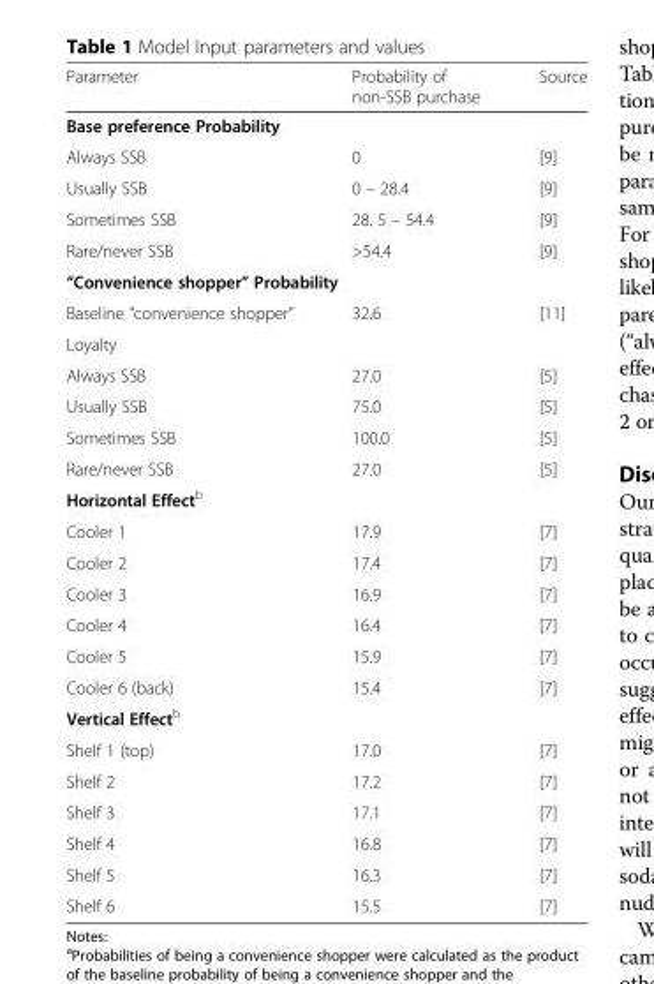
<table><thead><tr><td>Parameter</td><td>Probability of non-SSB purchase</td><td>Source</td></tr></thead><tbody><tr><td colspan="3">Base preference Probability</td></tr><tr><td>Always SSB</td><td>0</td><td>[9]</td></tr><tr><td>Usually SSB</td><td>0 – 28.4</td><td>[9]</td></tr><tr><td>Sometimes SSB</td><td>28. 5 – 54.4</td><td>[9]</td></tr><tr><td>Rare/never SSB</td><td>&gt;54.4</td><td>[9]</td></tr><tr><td colspan="3">“Convenience shopper” Probability</td></tr><tr><td>Baseline “convenience shopper”</td><td>32.6</td><td>[11]</td></tr><tr><td colspan="3">Loyalty</td></tr><tr><td>Always SSB</td><td>27.0</td><td>[5]</td></tr><tr><td>Usually SSB</td><td>75.0</td><td>[5]</td></tr><tr><td>Sometimes SSB</td><td>100.0</td><td>[5]</td></tr><tr><td>Rare/never SSB</td><td>27.0</td><td>[5]</td></tr><tr><td colspan="3">Horizontal Effect<sup>b</sup></td></tr><tr><td>Cooler 1</td><td>17.9</td><td>[7]</td></tr><tr><td>Cooler 2</td><td>17.4</td><td>[7]</td></tr><tr><td>Cooler 3</td><td>16.9</td><td>[7]</td></tr><tr><td>Cooler 4</td><td>16.4</td><td>[7]</td></tr><tr><td>Cooler 5</td><td>15.9</td><td>[7]</td></tr><tr><td>Cooler 6 (back)</td><td>15.4</td><td>[7]</td></tr><tr><td colspan="3">Vertical Effect<sup>b</sup></td></tr><tr><td>Shelf 1 (top)</td><td>17.0</td><td>[7]</td></tr><tr><td>Shelf 2</td><td>17.2</td><td>[7]</td></tr><tr><td>Shelf 3</td><td>17.1</td><td>[7]</td></tr><tr><td>Shelf 4</td><td>16.8</td><td>[7]</td></tr><tr><td>Shelf 5</td><td>16.3</td><td>[7]</td></tr><tr><td>Shelf 6</td><td>15.5</td><td>[7]</td></tr></tbody></table>